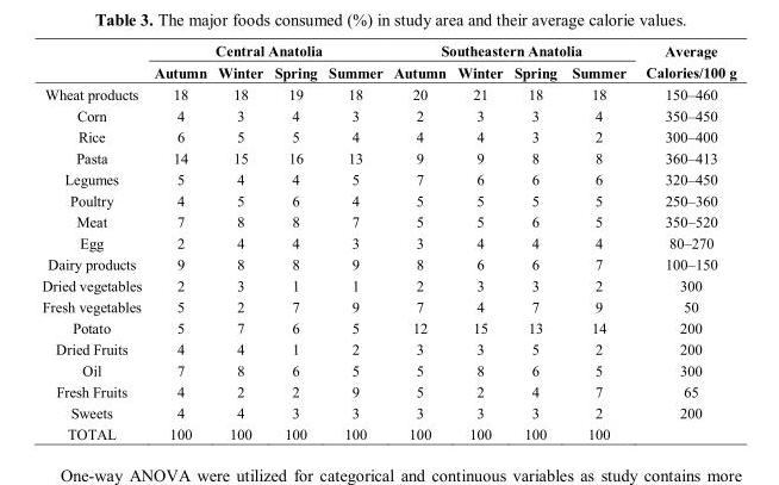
<table><thead><tr><td rowspan="2"></td><td colspan="4">Central Anatolia</td><td colspan="4">Southeastern Anatolia</td><td rowspan="2">Average Calories/100 g</td></tr><tr><td>Autumn</td><td>Winter</td><td>Spring</td><td>Summer</td><td>Autumn</td><td>Winter</td><td>Spring</td><td>Summer</td></tr></thead><tbody><tr><td>Wheat products</td><td>18</td><td>18</td><td>19</td><td>18</td><td>20</td><td>21</td><td>18</td><td>18</td><td>150–460</td></tr><tr><td>Corn</td><td>4</td><td>3</td><td>4</td><td>3</td><td>2</td><td>3</td><td>3</td><td>4</td><td>350–450</td></tr><tr><td>Rice</td><td>6</td><td>5</td><td>5</td><td>4</td><td>4</td><td>4</td><td>3</td><td>2</td><td>300–400</td></tr><tr><td>Pasta</td><td>14</td><td>15</td><td>16</td><td>13</td><td>9</td><td>9</td><td>8</td><td>8</td><td>360–413</td></tr><tr><td>Legumes</td><td>5</td><td>4</td><td>4</td><td>5</td><td>7</td><td>6</td><td>6</td><td>6</td><td>320–450</td></tr><tr><td>Poultry</td><td>4</td><td>5</td><td>6</td><td>4</td><td>5</td><td>5</td><td>5</td><td>5</td><td>250–360</td></tr><tr><td>Meat</td><td>7</td><td>8</td><td>8</td><td>7</td><td>5</td><td>5</td><td>6</td><td>5</td><td>350–520</td></tr><tr><td>Egg</td><td>2</td><td>4</td><td>4</td><td>3</td><td>3</td><td>4</td><td>4</td><td>4</td><td>80–270</td></tr><tr><td>Dairy products</td><td>9</td><td>8</td><td>8</td><td>9</td><td>8</td><td>6</td><td>6</td><td>7</td><td>100–150</td></tr><tr><td>Dried vegetables</td><td>2</td><td>3</td><td>1</td><td>1</td><td>2</td><td>3</td><td>3</td><td>2</td><td>300</td></tr><tr><td>Fresh vegetables</td><td>5</td><td>2</td><td>7</td><td>9</td><td>7</td><td>4</td><td>7</td><td>9</td><td>50</td></tr><tr><td>Potato</td><td>5</td><td>7</td><td>6</td><td>5</td><td>12</td><td>15</td><td>13</td><td>14</td><td>200</td></tr><tr><td>Dried Fruits</td><td>4</td><td>4</td><td>1</td><td>2</td><td>3</td><td>3</td><td>5</td><td>2</td><td>200</td></tr><tr><td>Oil</td><td>7</td><td>8</td><td>6</td><td>5</td><td>5</td><td>8</td><td>6</td><td>5</td><td>300</td></tr><tr><td>Fresh Fruits</td><td>4</td><td>2</td><td>2</td><td>9</td><td>5</td><td>2</td><td>4</td><td>7</td><td>65</td></tr><tr><td>Sweets</td><td>4</td><td>4</td><td>3</td><td>3</td><td>3</td><td>3</td><td>3</td><td>2</td><td>200</td></tr><tr><td>TOTAL</td><td>100</td><td>100</td><td>100</td><td>100</td><td>100</td><td>100</td><td>100</td><td>100</td><td></td></tr></tbody></table>